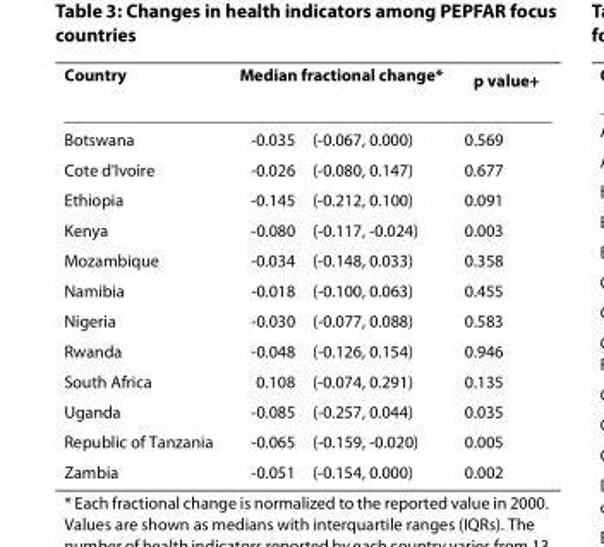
<table><thead><tr><td rowspan="2">Country Botswana</td><td colspan="2">Median fractional change*</td><td rowspan="2">p value<sup>+</sup> 0.569</td></tr><tr><td>-0.035</td><td>(-0.067, 0.000)</td></tr></thead><tbody><tr><td>Cote d&#x27;Ivoire</td><td>-0.026</td><td>(-0.080, 0.147)</td><td>0.677</td></tr><tr><td>Ethiopia</td><td>-0.145</td><td>(-0.212, 0.100)</td><td>0.091</td></tr><tr><td>Kenya</td><td>-0.080</td><td>(-0.117, -0.024)</td><td>0.003</td></tr><tr><td>Mozambique</td><td>-0.034</td><td>(-0.148, 0.033)</td><td>0.358</td></tr><tr><td>Namibia</td><td>-0.018</td><td>(-0.100, 0.063)</td><td>0.455</td></tr><tr><td>Nigeria</td><td>-0.030</td><td>(-0.077, 0.088)</td><td>0.583</td></tr><tr><td>Rwanda</td><td>-0.048</td><td>(-0.126, 0.154)</td><td>0.946</td></tr><tr><td>South Africa</td><td>0.108</td><td>(-0.074, 0.291)</td><td>0.135</td></tr><tr><td>Uganda</td><td>-0.085</td><td>(-0.257, 0.044)</td><td>0.035</td></tr><tr><td>Republic of Tanzania</td><td>-0.065</td><td>(-0.159, -0.020)</td><td>0.005</td></tr><tr><td>Zambia</td><td>-0.051</td><td>(-0.154, 0.000)</td><td>0.002</td></tr></tbody></table>